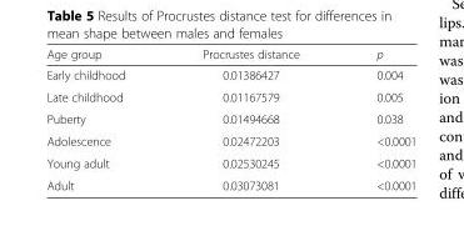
<table><thead><tr><td>Age group</td><td>Procrustes distance</td><td>p</td></tr></thead><tbody><tr><td>Early childhood</td><td>0.01386427</td><td>0.004</td></tr><tr><td>Late childhood</td><td>0.01167579</td><td>0.005</td></tr><tr><td>Puberty</td><td>0.01494668</td><td>0.038</td></tr><tr><td>Adolescence</td><td>0.02472203</td><td>&lt;0.0001</td></tr><tr><td>Young adult</td><td>0.02530245</td><td>&lt;0.0001</td></tr><tr><td>Adult</td><td>0.03073081</td><td>&lt;0.0001</td></tr></tbody></table>